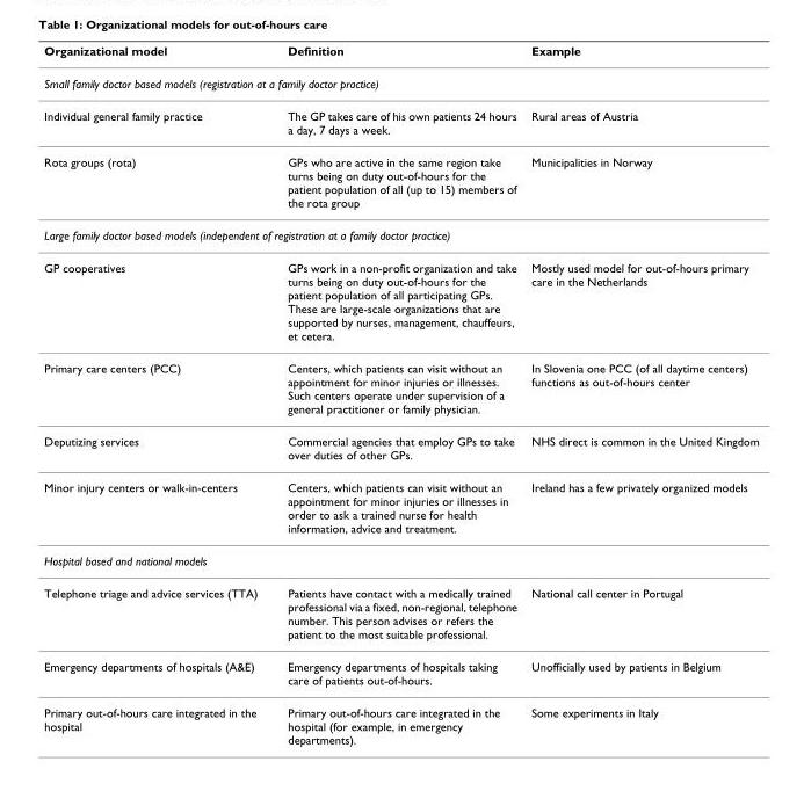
<table><thead><tr><td>Organizational model</td><td>Definition</td><td>Example</td></tr></thead><tbody><tr><td colspan="3">Small family doctor based models (registration at a family doctor practice)</td></tr><tr><td>Individual general family practice</td><td>The GP takes care of his own patients 24 hours a day, 7 days a week.</td><td>Rural areas of Austria</td></tr><tr><td>Rota groups (rota)</td><td>GPs who are active in the same region take turns being on duty out-of-hours for the patient population of all (up to 15) members of the rota group</td><td>Municipalities in Norway</td></tr><tr><td colspan="3">Large family doctor based models (independent of registration at a family doctor practice)</td></tr><tr><td>GP cooperatives</td><td>GPs work in a non-profit organization and take turns being on duty out-of-hours for the patient population of all participating GPs. These are large-scale organizations that are supported by nurses, management, chauffeurs, et cetera.</td><td>Mostly used model for out-of-hours primary care in the Netherlands</td></tr><tr><td>Primary care centers (PCC)</td><td>Centers, which patients can visit without an appointment for minor injuries or illnesses. Such centers operate under supervision of a general practitioner or family physician.</td><td>In Slovenia one PCC (of all daytime centers) functions as out-of-hours center</td></tr><tr><td>Deputizing services</td><td>Commercial agencies that employ GPs to take over duties of other GPs.</td><td>NHS direct is common in the United Kingdom</td></tr><tr><td>Minor injury centers or walk-in-centers</td><td>Centers, which patients can visit without an appointment for minor injuries or illnesses in order to ask a trained nurse for health information, advice and treatment.</td><td>Ireland has a few privately organized models</td></tr><tr><td colspan="3">Hospital based and national models</td></tr><tr><td>Telephone triage and advice services (TTA)</td><td>Patients have contact with a medically trained professional via a fixed, non-regional, telephone number. This person advises or refers the patient to the most suitable professional.</td><td>National call center in Portugal</td></tr><tr><td>Emergency departments of hospitals (A&amp;E)</td><td>Emergency departments of hospitals taking care of patients out-of-hours.</td><td>Unofficially used by patients in Belgium</td></tr><tr><td>Primary out-of-hours care integrated in the hospital</td><td>Primary out-of-hours care integrated in the hospital (for example, in emergency departments).</td><td>Some experiments in Italy</td></tr></tbody></table>